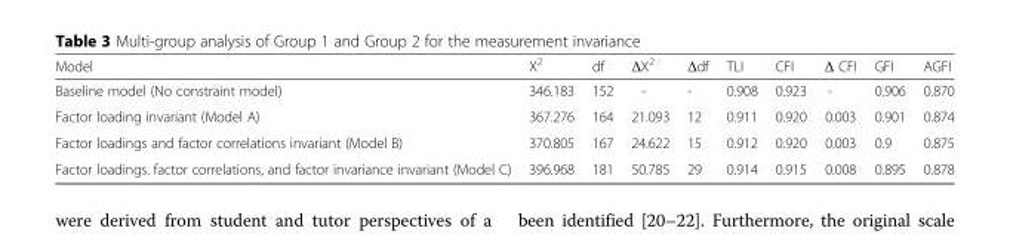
<table><thead><tr><td>Model</td><td>X<sup>2</sup></td><td>df</td><td>ΔX<sup>2</sup></td><td>Δdf</td><td>TLI</td><td>CFI</td><td>Δ CFI</td><td>GFI</td><td>AGFI</td></tr></thead><tbody><tr><td>Baseline model (No constraint model)</td><td>346.183</td><td>152</td><td>-</td><td>-</td><td>0.908</td><td>0.923</td><td>-</td><td>0.906</td><td>0.870</td></tr><tr><td>Factor loading invariant (Model A)</td><td>367.276</td><td>164</td><td>21.093</td><td>12</td><td>0.911</td><td>0.920</td><td>0.003</td><td>0.901</td><td>0.874</td></tr><tr><td>Factor loadings and factor correlations invariant (Model B)</td><td>370.805</td><td>167</td><td>24.622</td><td>15</td><td>0.912</td><td>0.920</td><td>0.003</td><td>0.9</td><td>0.875</td></tr><tr><td>Factor loadings. factor correlations, and factor invariance invariant (Model C)</td><td>396.968</td><td>181</td><td>50.785</td><td>29</td><td>0.914</td><td>0.915</td><td>0.008</td><td>0.895</td><td>0.878</td></tr></tbody></table>